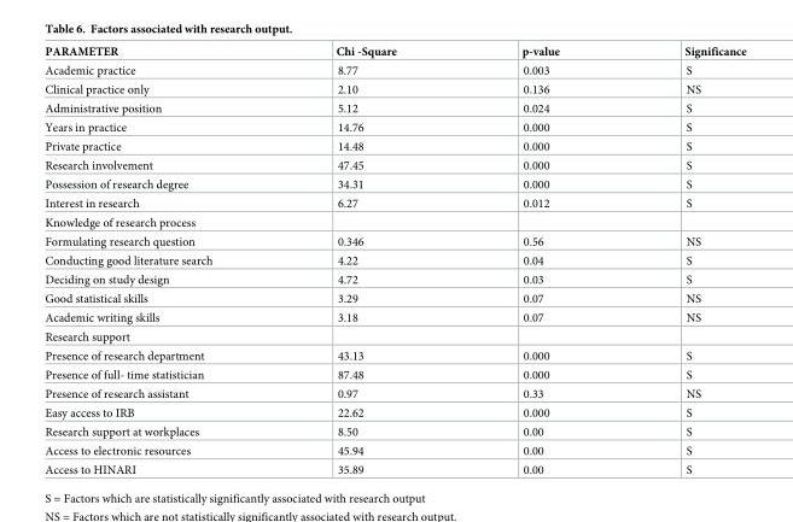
<table><thead><tr><td>PARAMETER</td><td>Chi -Square</td><td>p-value</td><td>Significance</td></tr></thead><tbody><tr><td>Academic practice</td><td>8.77</td><td>0.003</td><td>S</td></tr><tr><td>Clinical practice only</td><td>2.10</td><td>0.136</td><td>NS</td></tr><tr><td>Administrative position</td><td>5.12</td><td>0.024</td><td>S</td></tr><tr><td>Years in practice</td><td>14.76</td><td>0.000</td><td>S</td></tr><tr><td>Private practice</td><td>14.48</td><td>0.000</td><td>S</td></tr><tr><td>Research involvement</td><td>47.45</td><td>0.000</td><td>S</td></tr><tr><td>Possession of research degree</td><td>34.31</td><td>0.000</td><td>S</td></tr><tr><td>Interest in research</td><td>6.27</td><td>0.012</td><td>S</td></tr><tr><td colspan="4">Knowledge of research process</td></tr><tr><td>Formulating research question</td><td>0.346</td><td>0.56</td><td>NS</td></tr><tr><td>Conducting good literature search</td><td>4.22</td><td>0.04</td><td>S</td></tr><tr><td>Deciding on study design</td><td>4.72</td><td>0.03</td><td>S</td></tr><tr><td>Good statistical skills</td><td>3.29</td><td>0.07</td><td>NS</td></tr><tr><td>Academic writing skills</td><td>3.18</td><td>0.07</td><td>NS</td></tr><tr><td colspan="4">Research support</td></tr><tr><td>Presence of research department</td><td>43.13</td><td>0.000</td><td>S</td></tr><tr><td>Presence of full- time statistician</td><td>87.48</td><td>0.000</td><td>S</td></tr><tr><td>Presence of research assistant</td><td>0.97</td><td>0.33</td><td>NS</td></tr><tr><td>Easy access to IRB</td><td>22.62</td><td>0.000</td><td>S</td></tr><tr><td>Research support at workplaces</td><td>8.50</td><td>0.00</td><td>S</td></tr><tr><td>Access to electronic resources</td><td>45.94</td><td>0.00</td><td>S</td></tr><tr><td>Access to HINARI</td><td>35.89</td><td>0.00</td><td>S</td></tr></tbody></table>